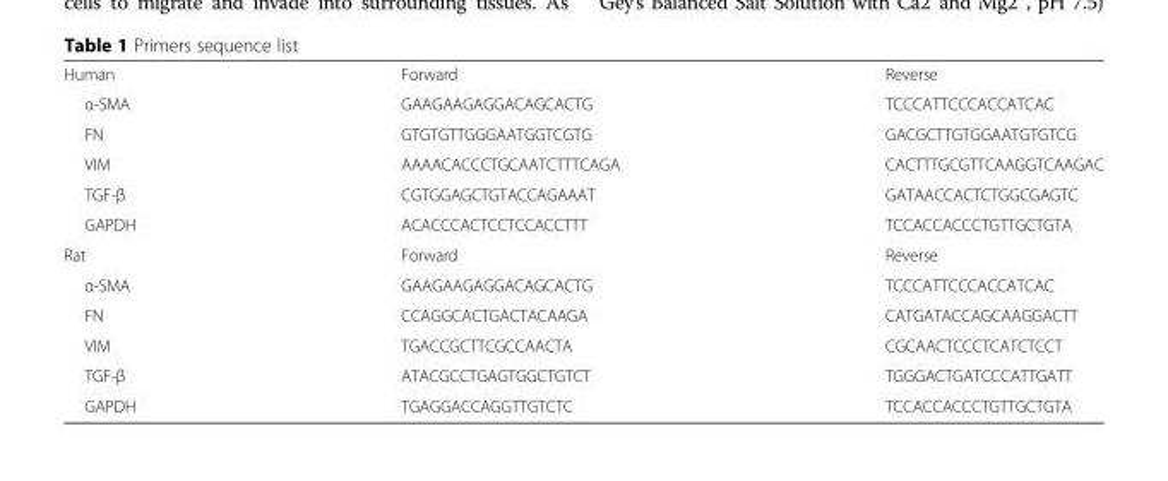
<table><tbody><tr><td>Human</td><td>Forward</td><td>Reverse</td></tr><tr><td>α-SMA</td><td>GAAGAAGAGGACAGCACTG</td><td>TCCCATTCCCACCATCAC</td></tr><tr><td>FN</td><td>GTGTGTTGGGAATGGTCGTG</td><td>GACGCTTGTGGAATGTGTCG</td></tr><tr><td>VIM</td><td>AAAACACCCTGCAATCTTTCAGA</td><td>CACTTTGCGTTCAAGGTCAAGAC</td></tr><tr><td>TGF-β</td><td>CGTGGAGCTGTACCAGAAAT</td><td>GATAACCACTCTGGCGAGTC</td></tr><tr><td>GAPDH</td><td>ACACCCACTCCTCCACCTTT</td><td>TCCACCACCCTGTTGCTGTA</td></tr><tr><td>Rat</td><td>Forward</td><td>Reverse</td></tr><tr><td>α-SMA</td><td>GAAGAAGAGGACAGCACTG</td><td>TCCCATTCCCACCATCAC</td></tr><tr><td>FN</td><td>CCAGGCACTGACTACAAGA</td><td>CATGATACCAGCAAGGACTT</td></tr><tr><td>VIM</td><td>TGACCGCTTCGCCAACTA</td><td>CGCAACTCCCTCATCTCCT</td></tr><tr><td>TGF-β</td><td>ATACGCCTGAGTGGCTGTCT</td><td>TGGGACTGATCCCATTGATT</td></tr><tr><td>GAPDH</td><td>TGAGGACCAGGTTGTCTC</td><td>TCCACCACCCTGTTGCTGTA</td></tr></tbody></table>